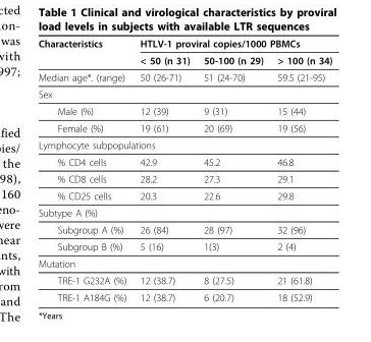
<table><thead><tr><td rowspan="2">Characteristics</td><td colspan="3">HTLV-1 proviral copies/1000 PBMCs</td></tr><tr><td>&lt; 50 (n 31)</td><td>50-100 (n 29)</td><td>&gt; 100 (n 34)</td></tr></thead><tbody><tr><td>Median age*. (range)</td><td>50 (26-71)</td><td>51 (24-70)</td><td>59.5 (21-95)</td></tr><tr><td colspan="4">Sex</td></tr><tr><td>Male (%)</td><td>12 (39)</td><td>9 (31)</td><td>15 (44)</td></tr><tr><td>Female (%)</td><td>19 (61)</td><td>20 (69)</td><td>19 (56)</td></tr><tr><td colspan="4">Lymphocyte subpopulations</td></tr><tr><td>% CD4 cells</td><td>42.9</td><td>45.2</td><td>46.8</td></tr><tr><td>% CD8 cells</td><td>28.2</td><td>27.3</td><td>29.1</td></tr><tr><td>% CD25 cells</td><td>20.3</td><td>22.6</td><td>29.8</td></tr><tr><td colspan="4">Subtype A (%)</td></tr><tr><td>Subgroup A (%)</td><td>26 (84)</td><td>28 (97)</td><td>32 (96)</td></tr><tr><td>Subgroup B (%)</td><td>5 (16)</td><td>1(3)</td><td>2 (4)</td></tr><tr><td colspan="4">Mutation</td></tr><tr><td>TRE-1 G232A (%)</td><td>12 (38.7)</td><td>8 (27.5)</td><td>21 (61.8)</td></tr><tr><td>TRE-1 A184G (%)</td><td>12 (38.7)</td><td>6 (20.7)</td><td>18 (52.9)</td></tr></tbody></table>